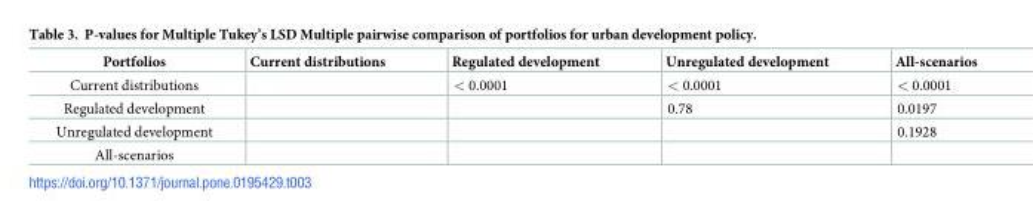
<table><thead><tr><td>Portfolios</td><td>Current distributions</td><td>Regulated development</td><td>Unregulated development</td><td>All-scenarios</td></tr></thead><tbody><tr><td>Current distributions</td><td></td><td>&lt; 0.0001</td><td>&lt; 0.0001</td><td>&lt; 0.0001</td></tr><tr><td>Regulated development</td><td></td><td></td><td>0.78</td><td>0.0197</td></tr><tr><td>Unregulated development</td><td></td><td></td><td></td><td>0.1928</td></tr><tr><td>All-scenarios</td><td></td><td></td><td></td><td></td></tr></tbody></table>